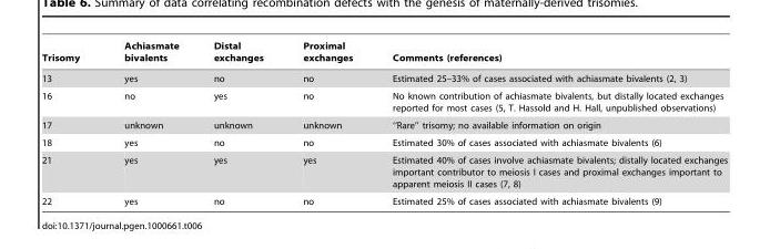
<table><thead><tr><td>Trisomy</td><td>Achiasmate bivalents</td><td>Distal exchanges</td><td>Proximal exchanges</td><td>Comments (references)</td></tr></thead><tbody><tr><td>13</td><td>yes</td><td>no</td><td>no</td><td>Estimated 25–33% of cases associated with achiasmate bivalents (2, 3)</td></tr><tr><td>16</td><td>no</td><td>yes</td><td>no</td><td>No known contribution of achiasmate bivalents, but distally located exchanges reported for most cases (5, T. Hassold and H. Hall, unpublished observations)</td></tr><tr><td>17</td><td>unknown</td><td>unknown</td><td>unknown</td><td>‘‘Rare’’ trisomy; no available information on origin</td></tr><tr><td>18</td><td>yes</td><td>no</td><td>no</td><td>Estimated 30% of cases associated with achiasmate bivalents (6)</td></tr><tr><td>21</td><td>yes</td><td>yes</td><td>yes</td><td>Estimated 40% of cases involve achiasmate bivalents; distally located exchanges important contributor to meiosis I cases and proximal exchanges important to apparent meiosis II cases (7, 8)</td></tr><tr><td>22</td><td>yes</td><td>no</td><td>no</td><td>Estimated 25% of cases associated with achiasmate bivalents (9)</td></tr></tbody></table>